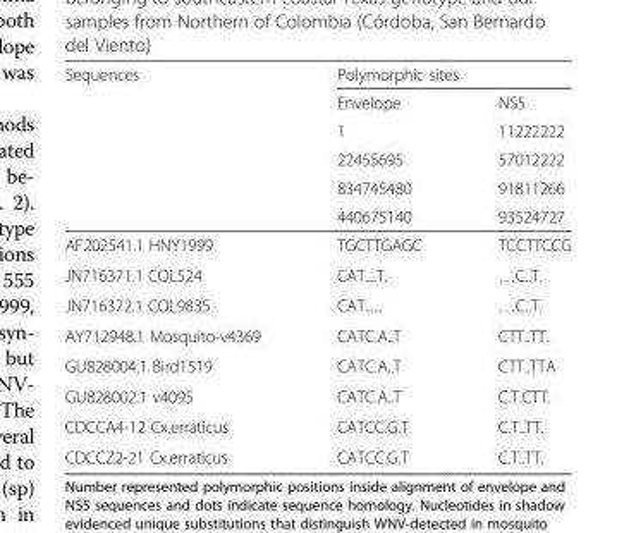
<table><thead><tr><td rowspan="6">Sequences</td><td colspan="2">Polymorphic sites</td></tr><tr><td rowspan="5">Envelope 1 22455695 834745480 440675140</td><td rowspan="5">NS5 11222222 57012222 91811266 93524727</td></tr><tr></tr><tr></tr><tr></tr><tr></tr></thead><tbody><tr><td>AF202541.1 HNY1999</td><td>TGCTTGAGC</td><td>TCCTTCCG</td></tr><tr><td>JN716371.1 COL524</td><td>CAT....T.</td><td>…C..T.</td></tr><tr><td>JN716372.1 COL9835</td><td>CAT......</td><td>…C..T.</td></tr><tr><td>AY712948.1 Mosquito-v4369</td><td>CATC.A..T</td><td>CTT..TT.</td></tr><tr><td>GU828004.1 Bird1519</td><td>CATC.A..T</td><td>CTT..TTA</td></tr><tr><td>GU828002.1 v4095</td><td>CATC.A..T</td><td>C.T.CTT.</td></tr><tr><td>CDCCA4-12 Cx.erraticus</td><td>CATCC.G.T</td><td>C.T..TT.</td></tr><tr><td>CDCCZ2-21 Cx.erraticus</td><td>CATCC.G.T</td><td>C.T..TT.</td></tr></tbody></table>